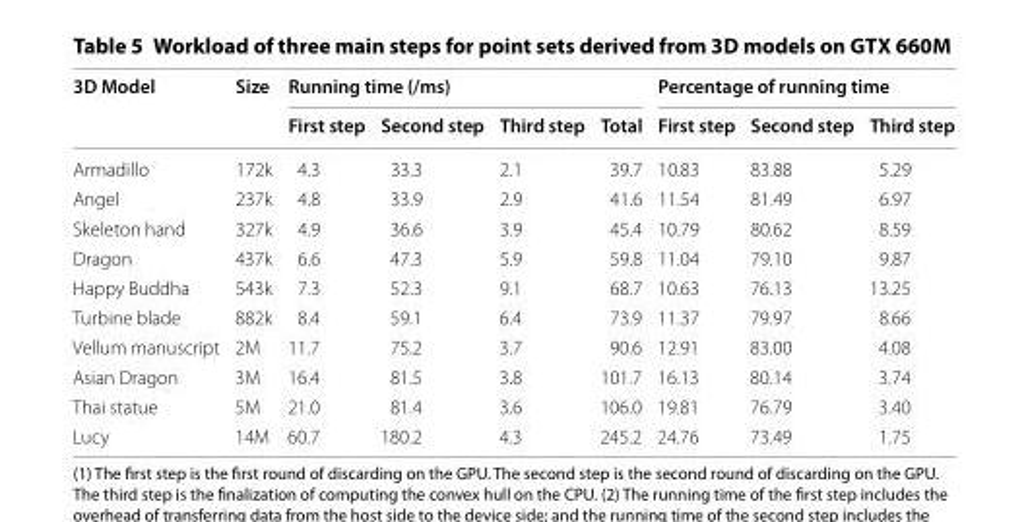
<table><thead><tr><td rowspan="2">3D Model</td><td rowspan="2">Size</td><td colspan="4">Running time (/ms)</td><td colspan="3">Percentage of running time</td></tr><tr><td>First step</td><td>Second step</td><td>Third step</td><td>Total</td><td>First step</td><td>Second step</td><td>Third step</td></tr></thead><tbody><tr><td>Armadillo</td><td>172k</td><td>4.3</td><td>33.3</td><td>2.1</td><td>39.7</td><td>10.83</td><td>83.88</td><td>5.29</td></tr><tr><td>Angel</td><td>237k</td><td>4.8</td><td>33.9</td><td>2.9</td><td>41.6</td><td>11.54</td><td>81.49</td><td>6.97</td></tr><tr><td>Skeleton hand</td><td>327k</td><td>4.9</td><td>36.6</td><td>3.9</td><td>45.4</td><td>10.79</td><td>80.62</td><td>8.59</td></tr><tr><td>Dragon</td><td>437k</td><td>6.6</td><td>47.3</td><td>5.9</td><td>59.8</td><td>11.04</td><td>79.10</td><td>9.87</td></tr><tr><td>Happy Buddha</td><td>543k</td><td>7.3</td><td>52.3</td><td>9.1</td><td>68.7</td><td>10.63</td><td>76.13</td><td>13.25</td></tr><tr><td>Turbine blade</td><td>882k</td><td>8.4</td><td>59.1</td><td>6.4</td><td>73.9</td><td>11.37</td><td>79.97</td><td>8.66</td></tr><tr><td>Vellum manuscript</td><td>2M</td><td>11.7</td><td>75.2</td><td>3.7</td><td>90.6</td><td>12.91</td><td>83.00</td><td>4.08</td></tr><tr><td>Asian Dragon</td><td>3M</td><td>16.4</td><td>81.5</td><td>3.8</td><td>101.7</td><td>16.13</td><td>80.14</td><td>3.74</td></tr><tr><td>Thai statue</td><td>5M</td><td>21.0</td><td>81.4</td><td>3.6</td><td>106.0</td><td>19.81</td><td>76.79</td><td>3.40</td></tr><tr><td>Lucy</td><td>14M</td><td>60.7</td><td>180.2</td><td>4.3</td><td>245.2</td><td>24.76</td><td>73.49</td><td>1.75</td></tr></tbody></table>